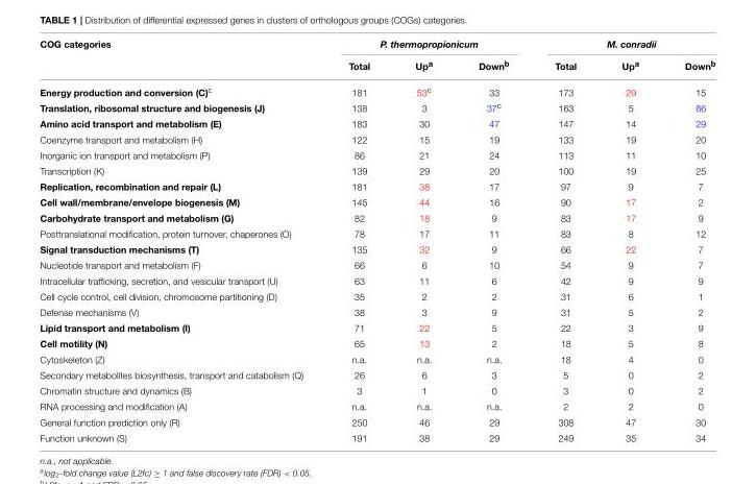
<table><thead><tr><td rowspan="2">COG categories</td><td colspan="3">P. thermopropionicum</td><td colspan="3">M. conradii</td></tr><tr><td>Total</td><td>Up<sup>a</sup></td><td>Down<sup>b</sup></td><td>Total</td><td>Up<sup>a</sup></td><td>Down<sup>b</sup></td></tr></thead><tbody><tr><td>Energy production and conversion (C)<sup>c</sup></td><td>181</td><td>53<sup>c</sup></td><td>33</td><td>173</td><td>29</td><td>15</td></tr><tr><td>Translation, ribosomal structure and biogenesis (J)</td><td>138</td><td>3</td><td>37<sup>c</sup></td><td>163</td><td>5</td><td>86</td></tr><tr><td>Amino acid transport and metabolism (E)</td><td>183</td><td>30</td><td>47</td><td>147</td><td>14</td><td>29</td></tr><tr><td>Coenzyme transport and metabolism (H)</td><td>122</td><td>15</td><td>19</td><td>133</td><td>19</td><td>20</td></tr><tr><td>Inorganic ion transport and metabolism (P)</td><td>86</td><td>21</td><td>24</td><td>113</td><td>11</td><td>10</td></tr><tr><td>Transcription (K)</td><td>139</td><td>29</td><td>20</td><td>100</td><td>19</td><td>25</td></tr><tr><td>Replication, recombination and repair (L)</td><td>181</td><td>38</td><td>17</td><td>97</td><td>9</td><td>7</td></tr><tr><td>Cell wall/membrane/envelope biogenesis (M)</td><td>145</td><td>44</td><td>16</td><td>90</td><td>17</td><td>2</td></tr><tr><td>Carbohydrate transport and metabolism (G)</td><td>82</td><td>18</td><td>9</td><td>83</td><td>17</td><td>9</td></tr><tr><td>Posttranslational modification, protein turnover, chaperones (O)</td><td>78</td><td>17</td><td>11</td><td>83</td><td>8</td><td>12</td></tr><tr><td>Signal transduction mechanisms (T)</td><td>135</td><td>32</td><td>9</td><td>66</td><td>22</td><td>7</td></tr><tr><td>Nucleotide transport and metabolism (F)</td><td>66</td><td>6</td><td>10</td><td>54</td><td>9</td><td>7</td></tr><tr><td>Intracellular trafficking, secretion, and vesicular transport (U)</td><td>63</td><td>11</td><td>6</td><td>42</td><td>9</td><td>9</td></tr><tr><td>Cell cycle control, cell division, chromosome partitioning (D)</td><td>35</td><td>2</td><td>2</td><td>31</td><td>6</td><td>1</td></tr><tr><td>Defense mechanisms (V)</td><td>38</td><td>3</td><td>9</td><td>31</td><td>5</td><td>2</td></tr><tr><td>Lipid transport and metabolism (I)</td><td>71</td><td>22</td><td>5</td><td>22</td><td>3</td><td>9</td></tr><tr><td>Cell motility (N)</td><td>65</td><td>13</td><td>2</td><td>18</td><td>5</td><td>8</td></tr><tr><td>Cytoskeleton (Z)</td><td>n.a.</td><td>n.a.</td><td>n.a.</td><td>18</td><td>4</td><td>0</td></tr><tr><td>Secondary metabolites biosynthesis, transport and catabolism (Q)</td><td>26</td><td>6</td><td>3</td><td>5</td><td>0</td><td>2</td></tr><tr><td>Chromatin structure and dynamics (B)</td><td>3</td><td>1</td><td>0</td><td>3</td><td>0</td><td>2</td></tr><tr><td>RNA processing and modification (A)</td><td>n.a.</td><td>n.a.</td><td>n.a.</td><td>2</td><td>2</td><td>0</td></tr><tr><td>General function prediction only (R)</td><td>250</td><td>46</td><td>29</td><td>308</td><td>47</td><td>30</td></tr><tr><td>Function unknown (S)</td><td>191</td><td>38</td><td>29</td><td>249</td><td>35</td><td>34</td></tr></tbody></table>